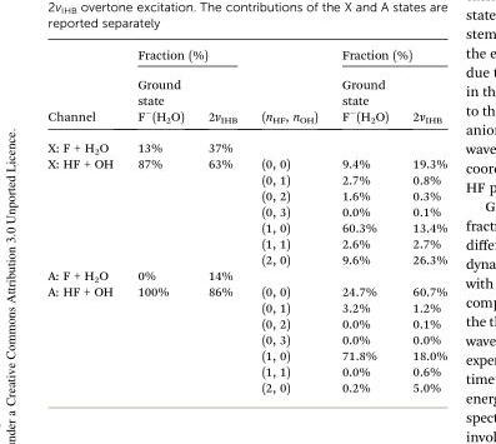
<table><thead><tr><td rowspan="2">Channel</td><td colspan="2">Fraction (%)</td><td rowspan="2">(n<sub>HF</sub>, n<sub>OH</sub>)</td><td colspan="2">Fraction (%)</td></tr><tr><td>Ground state F<sup>–</sup>(H<sub>2</sub>O)</td><td>2v<sub>IHB</sub></td><td>Ground state F<sup>–</sup>(H<sub>2</sub>O)</td><td>2v<sub>IHB</sub></td></tr></thead><tbody><tr><td>X: F + H<sub>2</sub>O</td><td>13%</td><td>37%</td><td></td><td></td><td></td></tr><tr><td rowspan="7">X: HF + OH</td><td rowspan="7">87%</td><td rowspan="7">63%</td><td>(0, 0)</td><td>9.4%</td><td>19.3%</td></tr><tr><td>(0, 1)</td><td>2.7%</td><td>0.8%</td></tr><tr><td>(0, 2)</td><td>1.6%</td><td>0.3%</td></tr><tr><td>(0, 3)</td><td>0.0%</td><td>0.1%</td></tr><tr><td>(1, 0)</td><td>60.3%</td><td>13.4%</td></tr><tr><td>(1, 1)</td><td>2.6%</td><td>2.7%</td></tr><tr><td>(2, 0)</td><td>9.6%</td><td>26.3%</td></tr><tr><td>A: F + H<sub>2</sub>O</td><td>0%</td><td>14%</td><td></td><td></td><td></td></tr><tr><td rowspan="7">A: HF + OH</td><td rowspan="7">100%</td><td rowspan="7">86%</td><td>(0, 0)</td><td>24.7%</td><td>60.7%</td></tr><tr><td>(0, 1)</td><td>3.2%</td><td>1.2%</td></tr><tr><td>(0, 2)</td><td>0.0%</td><td>0.1%</td></tr><tr><td>(0, 3)</td><td>0.0%</td><td>0.0%</td></tr><tr><td>(1, 0)</td><td>71.8%</td><td>18.0%</td></tr><tr><td>(1, 1)</td><td>0.0%</td><td>0.6%</td></tr><tr><td>(2, 0)</td><td>0.2%</td><td>5.0%</td></tr></tbody></table>